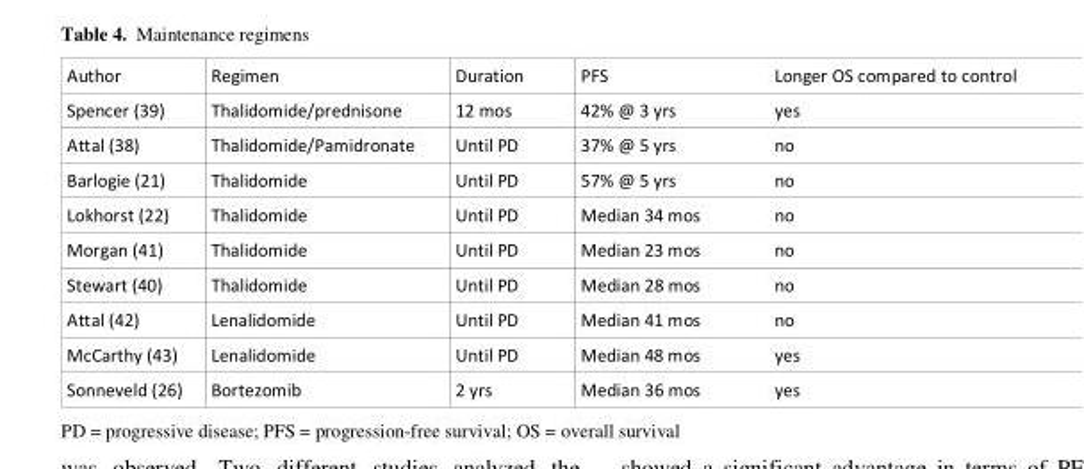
<table><thead><tr><td>Author</td><td>Regimen</td><td>Duration</td><td>PFS</td><td>Longer OS compared to control</td></tr></thead><tbody><tr><td>Spencer (39)</td><td>Thalidomide/prednisone</td><td>12 mos</td><td>42% @ 3 yrs</td><td>yes</td></tr><tr><td>Attal (38)</td><td>Thalidomide/Pamidronate</td><td>Until PD</td><td>37% @ 5 yrs</td><td>no</td></tr><tr><td>Barlogie (21)</td><td>Thalidomide</td><td>Until PD</td><td>57% @ 5 yrs</td><td>no</td></tr><tr><td>Lokhorst (22)</td><td>Thalidomide</td><td>Until PD</td><td>Median 34 mos</td><td>no</td></tr><tr><td>Morgan (41)</td><td>Thalidomide</td><td>Until PD</td><td>Median 23 mos</td><td>no</td></tr><tr><td>Stewart (40)</td><td>Thalidomide</td><td>Until PD</td><td>Median 28 mos</td><td>no</td></tr><tr><td>Attal (42)</td><td>Lenalidomide</td><td>Until PD</td><td>Median 41 mos</td><td>no</td></tr><tr><td>McCarthy (43)</td><td>Lenalidomide</td><td>Until PD</td><td>Median 48 mos</td><td>yes</td></tr><tr><td>Sonneveld (26)</td><td>Bortezomib</td><td>2 yrs</td><td>Median 36 mos</td><td>yes</td></tr></tbody></table>